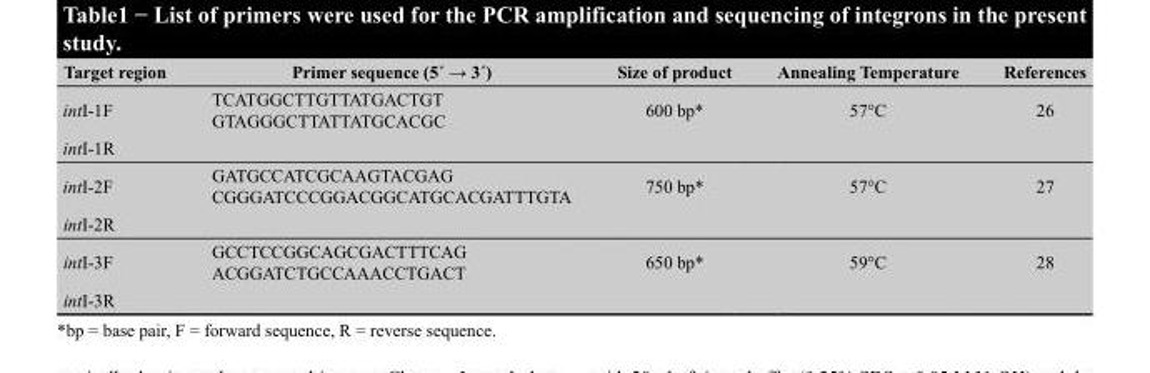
<table><thead><tr><td>Target region</td><td>Primer sequence (5´ → 3´)</td><td>Size of product</td><td>Annealing Temperature</td><td>References</td></tr></thead><tbody><tr><td>intI-1F</td><td>TCATGGCTTGTTATGACTGT GTAGGGCTTATTATGCACGC</td><td>600 bp*</td><td>57°C</td><td>26</td></tr><tr><td colspan="5">intI-1R</td></tr><tr><td>intI-2F</td><td>GATGCCATCGCAAGTACGAG CGGGATCCCGGACGGCATGCACGATTTGTA</td><td>750 bp*</td><td>57°C</td><td>27</td></tr><tr><td colspan="5">intI-2R</td></tr><tr><td>intI-3F</td><td>GCCTCCGGCAGCGACTTTCAG ACGGATCTGCCAAACCTGACT</td><td>650 bp*</td><td>59°C</td><td>28</td></tr><tr><td>intI-3R</td><td></td><td></td><td></td><td></td></tr></tbody></table>